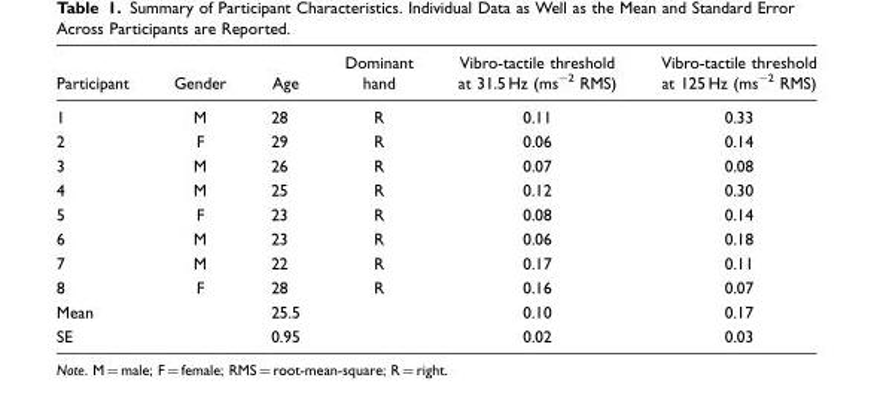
<table><thead><tr><td>Participant</td><td>Gender</td><td>Age</td><td>Dominant hand</td><td>Vibro-tactile threshold at 31.5 Hz (ms<sup>−2</sup> RMS)</td><td>Vibro-tactile threshold at 125 Hz (ms<sup>−2</sup> RMS)</td></tr></thead><tbody><tr><td>1</td><td>M</td><td>28</td><td>R</td><td>0.11</td><td>0.33</td></tr><tr><td>2</td><td>F</td><td>29</td><td>R</td><td>0.06</td><td>0.14</td></tr><tr><td>3</td><td>M</td><td>26</td><td>R</td><td>0.07</td><td>0.08</td></tr><tr><td>4</td><td>M</td><td>25</td><td>R</td><td>0.12</td><td>0.30</td></tr><tr><td>5</td><td>F</td><td>23</td><td>R</td><td>0.08</td><td>0.14</td></tr><tr><td>6</td><td>M</td><td>23</td><td>R</td><td>0.06</td><td>0.18</td></tr><tr><td>7</td><td>M</td><td>22</td><td>R</td><td>0.17</td><td>0.11</td></tr><tr><td>8</td><td>F</td><td>28</td><td>R</td><td>0.16</td><td>0.07</td></tr><tr><td>Mean</td><td></td><td>25.5</td><td></td><td>0.10</td><td>0.17</td></tr><tr><td>SE</td><td></td><td>0.95</td><td></td><td>0.02</td><td>0.03</td></tr></tbody></table>